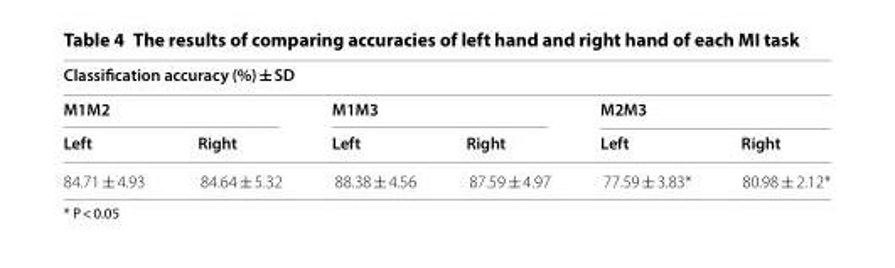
<table><thead><tr><td colspan="6">Classification accuracy (%) ± SD</td></tr><tr><td colspan="2">M1M2</td><td colspan="2">M1M3</td><td colspan="2">M2M3</td></tr><tr><td>Left</td><td>Right</td><td>Left</td><td>Right</td><td>Left</td><td>Right</td></tr></thead><tbody><tr><td>84.71 ± 4.93</td><td>84.64 ± 5.32</td><td>88.38 ± 4.56</td><td>87.59 ± 4.97</td><td>77.59 ± 3.83*</td><td>80.98 ± 2.12*</td></tr></tbody></table>